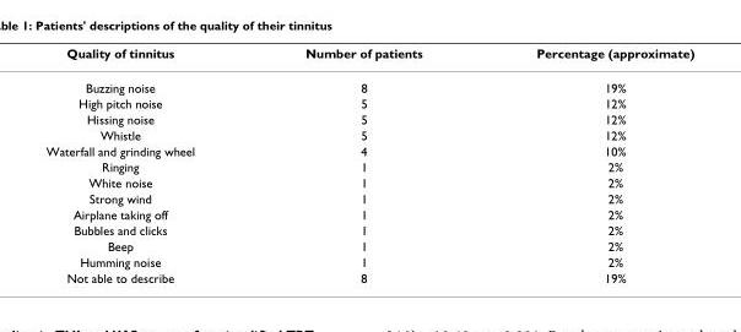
<table><thead><tr><td>Quality of tinnitus</td><td>Number of patients</td><td>Percentage (approximate)</td></tr></thead><tbody><tr><td>Buzzing noise</td><td>8</td><td>19%</td></tr><tr><td>High pitch noise</td><td>5</td><td>12%</td></tr><tr><td>Hissing noise</td><td>5</td><td>12%</td></tr><tr><td>Whistle</td><td>5</td><td>12%</td></tr><tr><td>Waterfall and grinding wheel</td><td>4</td><td>10%</td></tr><tr><td>Ringing</td><td>1</td><td>2%</td></tr><tr><td>White noise</td><td>1</td><td>2%</td></tr><tr><td>Strong wind</td><td>1</td><td>2%</td></tr><tr><td>Airplane taking off</td><td>1</td><td>2%</td></tr><tr><td>Bubbles and clicks</td><td>1</td><td>2%</td></tr><tr><td>Beep</td><td>1</td><td>2%</td></tr><tr><td>Humming noise</td><td>1</td><td>2%</td></tr><tr><td>Not able to describe</td><td>8</td><td>19%</td></tr></tbody></table>